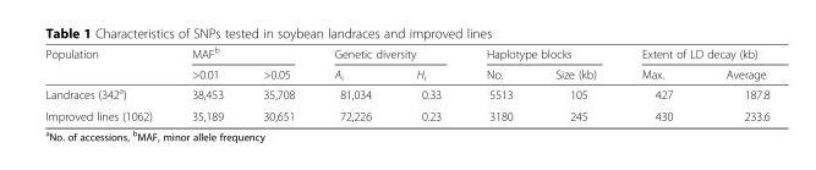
<table><thead><tr><td rowspan="2">Population</td><td colspan="2">MAF<sup>b</sup></td><td colspan="2">Genetic diversity</td><td colspan="2">Haplotype blocks</td><td colspan="2">Extent of LD decay (kb)</td></tr><tr><td>&gt;0.01</td><td>&gt;0.05</td><td>A<sub>i</sub></td><td>H<sub>i</sub></td><td>No.</td><td>Size (kb)</td><td>Max.</td><td>Average</td></tr></thead><tbody><tr><td>Landraces (342<sup>a</sup>)</td><td>38,453</td><td>35,708</td><td>81,034</td><td>0.33</td><td>5513</td><td>105</td><td>427</td><td>187.8</td></tr><tr><td>Improved lines (1062)</td><td>35,189</td><td>30,651</td><td>72,226</td><td>0.23</td><td>3180</td><td>245</td><td>430</td><td>233.6</td></tr></tbody></table>